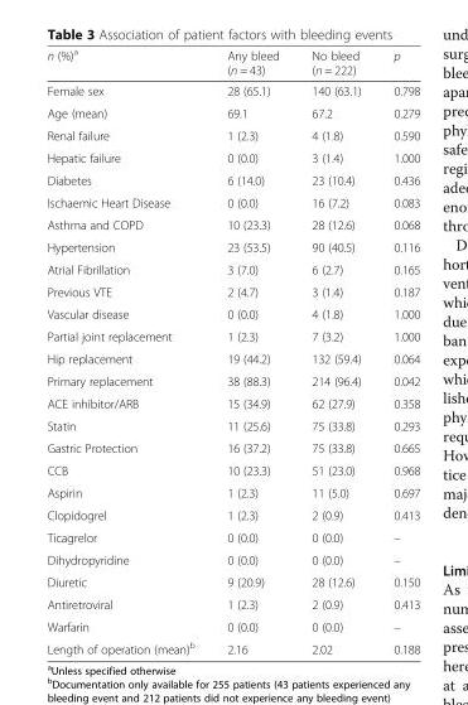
<table><thead><tr><td>n (%)<sup>a</sup></td><td>Any bleed (n = 43)</td><td>No bleed (n = 222)</td><td>p</td></tr></thead><tbody><tr><td>Female sex</td><td>28 (65.1)</td><td>140 (63.1)</td><td>0.798</td></tr><tr><td>Age (mean)</td><td>69.1</td><td>67.2</td><td>0.279</td></tr><tr><td>Renal failure</td><td>1 (2.3)</td><td>4 (1.8)</td><td>0.590</td></tr><tr><td>Hepatic failure</td><td>0 (0.0)</td><td>3 (1.4)</td><td>1.000</td></tr><tr><td>Diabetes</td><td>6 (14.0)</td><td>23 (10.4)</td><td>0.436</td></tr><tr><td>Ischaemic Heart Disease</td><td>0 (0.0)</td><td>16 (7.2)</td><td>0.083</td></tr><tr><td>Asthma and COPD</td><td>10 (23.3)</td><td>28 (12.6)</td><td>0.068</td></tr><tr><td>Hypertension</td><td>23 (53.5)</td><td>90 (40.5)</td><td>0.116</td></tr><tr><td>Atrial Fibrillation</td><td>3 (7.0)</td><td>6 (2.7)</td><td>0.165</td></tr><tr><td>Previous VTE</td><td>2 (4.7)</td><td>3 (1.4)</td><td>0.187</td></tr><tr><td>Vascular disease</td><td>0 (0.0)</td><td>4 (1.8)</td><td>1.000</td></tr><tr><td>Partial joint replacement</td><td>1 (2.3)</td><td>7 (3.2)</td><td>1.000</td></tr><tr><td>Hip replacement</td><td>19 (44.2)</td><td>132 (59.4)</td><td>0.064</td></tr><tr><td>Primary replacement</td><td>38 (88.3)</td><td>214 (96.4)</td><td>0.042</td></tr><tr><td>ACE inhibitor/ARB</td><td>15 (34.9)</td><td>62 (27.9)</td><td>0.358</td></tr><tr><td>Statin</td><td>11 (25.6)</td><td>75 (33.8)</td><td>0.293</td></tr><tr><td>Gastric Protection</td><td>16 (37.2)</td><td>75 (33.8)</td><td>0.665</td></tr><tr><td>CCB</td><td>10 (23.3)</td><td>51 (23.0)</td><td>0.968</td></tr><tr><td>Aspirin</td><td>1 (2.3)</td><td>11 (5.0)</td><td>0.697</td></tr><tr><td>Clopidogrel</td><td>1 (2.3)</td><td>2 (0.9)</td><td>0.413</td></tr><tr><td>Ticagrelor</td><td>0 (0.0)</td><td>0 (0.0)</td><td>–</td></tr><tr><td>Dihydropyridine</td><td>0 (0.0)</td><td>0 (0.0)</td><td>–</td></tr><tr><td>Diuretic</td><td>9 (20.9)</td><td>28 (12.6)</td><td>0.150</td></tr><tr><td>Antiretroviral</td><td>1 (2.3)</td><td>2 (0.9)</td><td>0.413</td></tr><tr><td>Warfarin</td><td>0 (0.0)</td><td>0 (0.0)</td><td>–</td></tr><tr><td>Length of operation (mean)<sup>b</sup></td><td>2.16</td><td>2.02</td><td>0.188</td></tr></tbody></table>